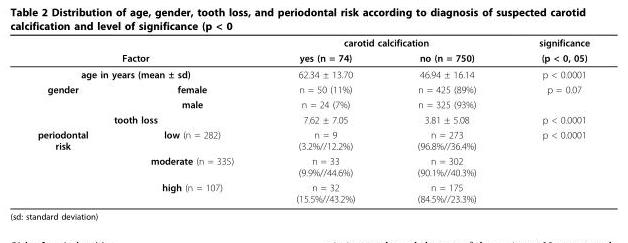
<table><thead><tr><td></td><td></td><td colspan="2">carotid calcification</td><td rowspan="2">significance (p &lt; 0, 05)</td></tr><tr><td colspan="2">Factor</td><td>yes (n = 74)</td><td>no (n = 750)</td></tr></thead><tbody><tr><td colspan="2">age in years (mean ± sd)</td><td>62.34 ± 13.70</td><td>46.94 ± 16.14</td><td>p &lt; 0.0001</td></tr><tr><td rowspan="2">gender</td><td>female</td><td>n = 50 (11%)</td><td>n = 425 (89%)</td><td>p = 0.07</td></tr><tr><td>male</td><td>n = 24 (7%)</td><td>n = 325 (93%)</td><td></td></tr><tr><td colspan="2">tooth loss</td><td>7.62 ± 7.05</td><td>3.81 ± 5.08</td><td>p &lt; 0.0001</td></tr><tr><td rowspan="3">periodontal risk</td><td>low (n = 282)</td><td>n = 9 (3.2%//12.2%)</td><td>n = 273 (96.8%//36.4%)</td><td>p &lt; 0.0001</td></tr><tr><td>moderate (n = 335)</td><td>n = 33 (9.9%//44.6%)</td><td>n = 302 (90.1%//40.3%)</td><td></td></tr><tr><td>high (n = 107)</td><td>n = 32 (15.5%//43.2%)</td><td>n = 175 (84.5%//23.3%)</td><td></td></tr></tbody></table>